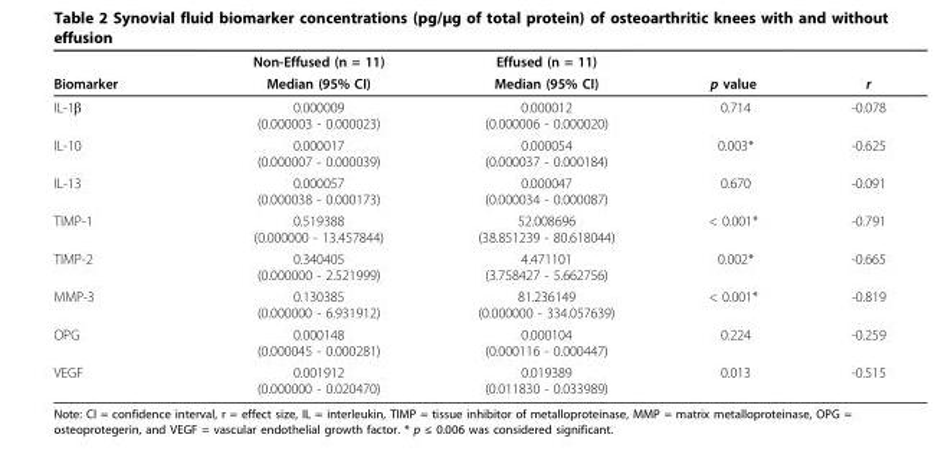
<table><thead><tr><td rowspan="2">Biomarker</td><td rowspan="2">Non-Effused (n = 11) Median (95% CI)</td><td rowspan="2">Effused (n = 11) Median (95% CI)</td><td rowspan="2">p value</td><td rowspan="2">r</td></tr><tr></tr></thead><tbody><tr><td>IL-1β</td><td>0.000009 (0.000003 - 0.000023)</td><td>0.000012 (0.000006 - 0.000020)</td><td>0.714</td><td>-0.078</td></tr><tr><td>IL-10</td><td>0.000017 (0.000007 - 0.000039)</td><td>0.000054 (0.000037 - 0.000184)</td><td>0.003*</td><td>-0.625</td></tr><tr><td>IL-13</td><td>0.000057 (0.000038 - 0.000173)</td><td>0.000047 (0.000034 - 0.000087)</td><td>0.670</td><td>-0.091</td></tr><tr><td>TIMP-1</td><td>0.519388 (0.000000 - 13.457844)</td><td>52.008696 (38.851239 - 80.618044)</td><td>&lt; 0.001*</td><td>-0.791</td></tr><tr><td>TIMP-2</td><td>0.340405 (0.000000 - 2.521999)</td><td>4.471101 (3.758427 - 5.662756)</td><td>0.002*</td><td>-0.665</td></tr><tr><td>MMP-3</td><td>0.130385 (0.000000 - 6.931912)</td><td>81.236149 (0.000000 - 334.057639)</td><td>&lt; 0.001*</td><td>-0.819</td></tr><tr><td>OPG</td><td>0.000148 (0.000045 - 0.000281)</td><td>0.000104 (0.000116 - 0.000447)</td><td>0.224</td><td>-0.259</td></tr><tr><td>VEGF</td><td>0.001912 (0.000000 - 0.020470)</td><td>0.019389 (0.011830 - 0.033989)</td><td>0.013</td><td>-0.515</td></tr></tbody></table>